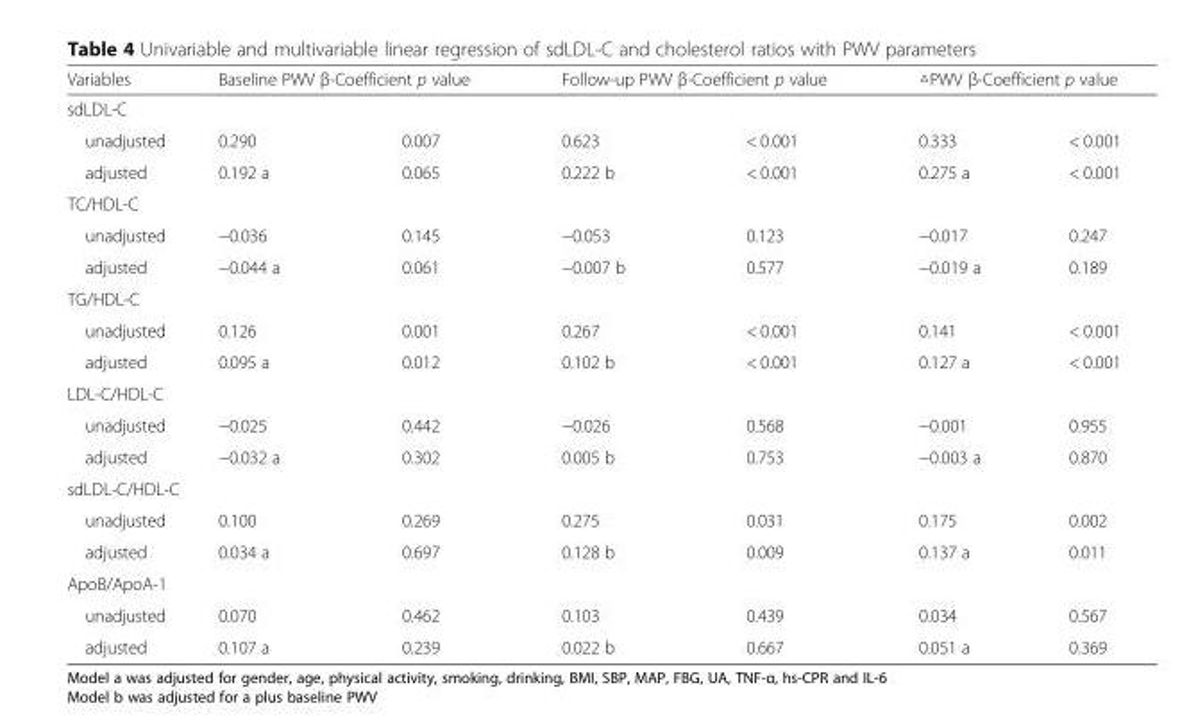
<table><thead><tr><td>Variables</td><td colspan="2">Baseline PWV β-Coefficient p value</td><td colspan="2">Follow-up PWV β-Coefficient p value</td><td colspan="2">△PWV β-Coefficient p value</td></tr><tr><td colspan="7">sdLDL-C</td></tr><tr><td>unadjusted</td><td>0.290</td><td>0.007</td><td>0.623</td><td>&lt; 0.001</td><td>0.333</td><td>&lt; 0.001</td></tr></thead><tbody><tr><td>adjusted</td><td>0.192 a</td><td>0.065</td><td>0.222 b</td><td>&lt; 0.001</td><td>0.275 a</td><td>&lt; 0.001</td></tr><tr><td colspan="7">TC/HDL-C</td></tr><tr><td>unadjusted</td><td>−0.036</td><td>0.145</td><td>−0.053</td><td>0.123</td><td>−0.017</td><td>0.247</td></tr><tr><td>adjusted</td><td>−0.044 a</td><td>0.061</td><td>−0.007 b</td><td>0.577</td><td>−0.019 a</td><td>0.189</td></tr><tr><td colspan="7">TG/HDL-C</td></tr><tr><td>unadjusted</td><td>0.126</td><td>0.001</td><td>0.267</td><td>&lt; 0.001</td><td>0.141</td><td>&lt; 0.001</td></tr><tr><td>adjusted</td><td>0.095 a</td><td>0.012</td><td>0.102 b</td><td>&lt; 0.001</td><td>0.127 a</td><td>&lt; 0.001</td></tr><tr><td colspan="7">LDL-C/HDL-C</td></tr><tr><td>unadjusted</td><td>−0.025</td><td>0.442</td><td>−0.026</td><td>0.568</td><td>−0.001</td><td>0.955</td></tr><tr><td>adjusted</td><td>−0.032 a</td><td>0.302</td><td>0.005 b</td><td>0.753</td><td>−0.003 a</td><td>0.870</td></tr><tr><td colspan="7">sdLDL-C/HDL-C</td></tr><tr><td>unadjusted</td><td>0.100</td><td>0.269</td><td>0.275</td><td>0.031</td><td>0.175</td><td>0.002</td></tr><tr><td>adjusted</td><td>0.034 a</td><td>0.697</td><td>0.128 b</td><td>0.009</td><td>0.137 a</td><td>0.011</td></tr><tr><td colspan="7">ApoB/ApoA-1</td></tr><tr><td>unadjusted</td><td>0.070</td><td>0.462</td><td>0.103</td><td>0.439</td><td>0.034</td><td>0.567</td></tr><tr><td>adjusted</td><td>0.107 a</td><td>0.239</td><td>0.022 b</td><td>0.667</td><td>0.051 a</td><td>0.369</td></tr></tbody></table>